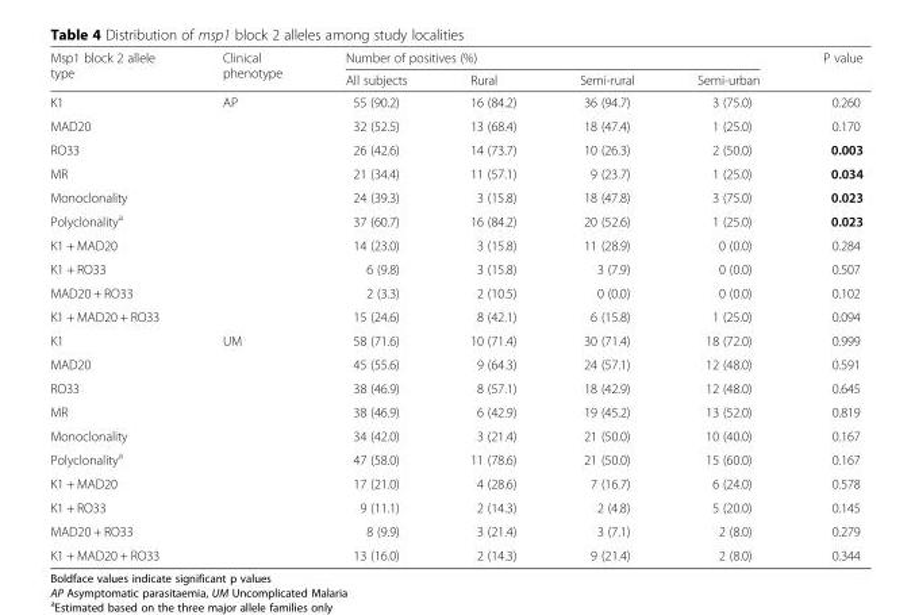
<table><thead><tr><td rowspan="2">Msp1 block 2 allele type</td><td rowspan="2">Clinical phenotype</td><td colspan="4">Number of positives (%)</td><td rowspan="2">P value</td></tr><tr><td>All subjects</td><td>Rural</td><td>Semi-rural</td><td>Semi-urban</td></tr></thead><tbody><tr><td>K1</td><td rowspan="10">AP</td><td>55 (90.2)</td><td>16 (84.2)</td><td>36 (94.7)</td><td>3 (75.0)</td><td>0.260</td></tr><tr><td>MAD20</td><td>32 (52.5)</td><td>13 (68.4)</td><td>18 (47.4)</td><td>1 (25.0)</td><td>0.170</td></tr><tr><td>RO33</td><td>26 (42.6)</td><td>14 (73.7)</td><td>10 (26.3)</td><td>2 (50.0)</td><td>0.003</td></tr><tr><td>MR</td><td>21 (34.4)</td><td>11 (57.1)</td><td>9 (23.7)</td><td>1 (25.0)</td><td>0.034</td></tr><tr><td>Monoclonality</td><td>24 (39.3)</td><td>3 (15.8)</td><td>18 (47.8)</td><td>3 (75.0)</td><td>0.023</td></tr><tr><td>Polyclonality<sup>a</sup></td><td>37 (60.7)</td><td>16 (84.2)</td><td>20 (52.6)</td><td>1 (25.0)</td><td>0.023</td></tr><tr><td>K1 + MAD20</td><td>14 (23.0)</td><td>3 (15.8)</td><td>11 (28.9)</td><td>0 (0.0)</td><td>0.284</td></tr><tr><td>K1 + RO33</td><td>6 (9.8)</td><td>3 (15.8)</td><td>3 (7.9)</td><td>0 (0.0)</td><td>0.507</td></tr><tr><td>MAD20 + RO33</td><td>2 (3.3)</td><td>2 (10.5)</td><td>0 (0.0)</td><td>0 (0.0)</td><td>0.102</td></tr><tr><td>K1 + MAD20 + RO33</td><td>15 (24.6)</td><td>8 (42.1)</td><td>6 (15.8)</td><td>1 (25.0)</td><td>0.094</td></tr><tr><td>K1</td><td rowspan="10">UM</td><td>58 (71.6)</td><td>10 (71.4)</td><td>30 (71.4)</td><td>18 (72.0)</td><td>0.999</td></tr><tr><td>MAD20</td><td>45 (55.6)</td><td>9 (64.3)</td><td>24 (57.1)</td><td>12 (48.0)</td><td>0.591</td></tr><tr><td>RO33</td><td>38 (46.9)</td><td>8 (57.1)</td><td>18 (42.9)</td><td>12 (48.0)</td><td>0.645</td></tr><tr><td>MR</td><td>38 (46.9)</td><td>6 (42.9)</td><td>19 (45.2)</td><td>13 (52.0)</td><td>0.819</td></tr><tr><td>Monoclonality</td><td>34 (42.0)</td><td>3 (21.4)</td><td>21 (50.0)</td><td>10 (40.0)</td><td>0.167</td></tr><tr><td>Polyclonality<sup>a</sup></td><td>47 (58.0)</td><td>11 (78.6)</td><td>21 (50.0)</td><td>15 (60.0)</td><td>0.167</td></tr><tr><td>K1 + MAD20</td><td>17 (21.0)</td><td>4 (28.6)</td><td>7 (16.7)</td><td>6 (24.0)</td><td>0.578</td></tr><tr><td>K1 + RO33</td><td>9 (11.1)</td><td>2 (14.3)</td><td>2 (4.8)</td><td>5 (20.0)</td><td>0.145</td></tr><tr><td>MAD20 + RO33</td><td>8 (9.9)</td><td>3 (21.4)</td><td>3 (7.1)</td><td>2 (8.0)</td><td>0.279</td></tr><tr><td>K1 + MAD20 + RO33</td><td>13 (16.0)</td><td>2 (14.3)</td><td>9 (21.4)</td><td>2 (8.0)</td><td>0.344</td></tr></tbody></table>